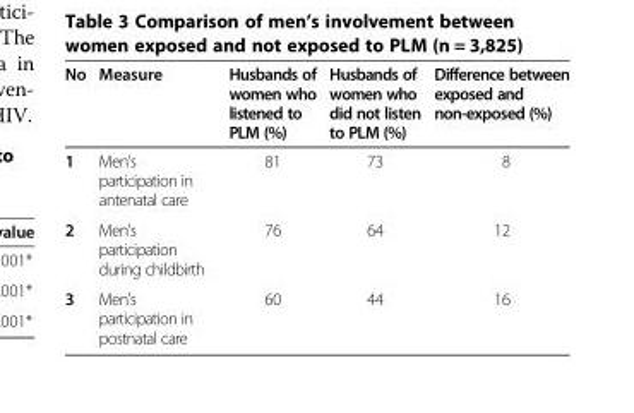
<table><thead><tr><td>No</td><td>Measure</td><td>Husbands of women who listened to PLM (%)</td><td>Husbands of women who did not listen to PLM (%)</td><td>Difference between exposed and non-exposed (%)</td></tr></thead><tbody><tr><td>1</td><td>Men’s participation in antenatal care</td><td>81</td><td>73</td><td>8</td></tr><tr><td>2</td><td>Men’s participation during childbirth</td><td>76</td><td>64</td><td>12</td></tr><tr><td>3</td><td>Men’s participation in postnatal care</td><td>60</td><td>44</td><td>16</td></tr></tbody></table>